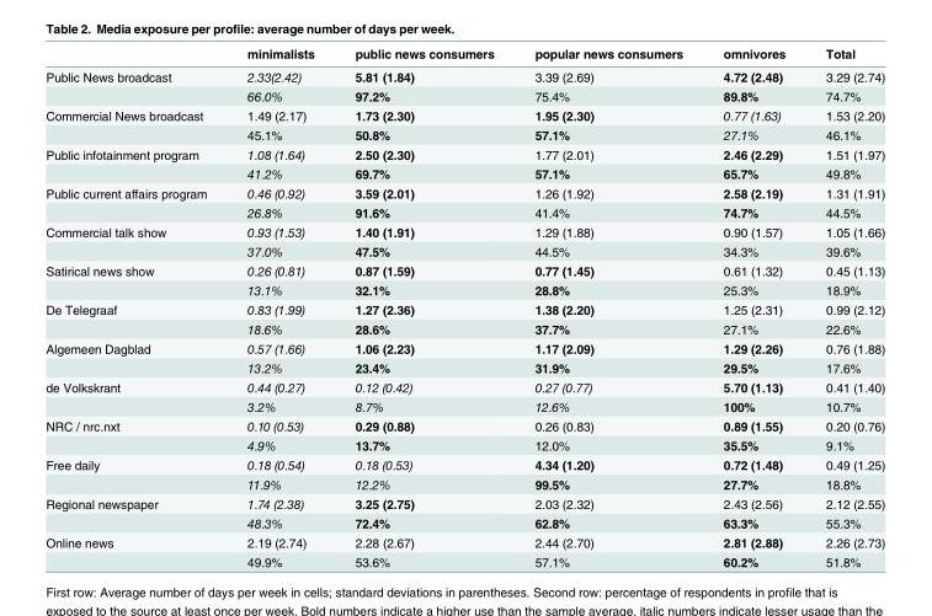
<table><thead><tr><td></td><td>minimalists</td><td>public news consumers</td><td>popular news consumers</td><td>omnivores</td><td>Total</td></tr></thead><tbody><tr><td rowspan="2">Public News broadcast</td><td>2.33(2.42)</td><td>5.81 (1.84)</td><td>3.39 (2.69)</td><td>4.72 (2.48)</td><td>3.29 (2.74)</td></tr><tr><td>66.0%</td><td>97.2%</td><td>75.4%</td><td>89.8%</td><td>74.7%</td></tr><tr><td rowspan="2">Commercial News broadcast</td><td>1.49 (2.17)</td><td>1.73 (2.30)</td><td>1.95 (2.30)</td><td>0.77 (1.63)</td><td>1.53 (2.20)</td></tr><tr><td>45.1%</td><td>50.8%</td><td>57.1%</td><td>27.1%</td><td>46.1%</td></tr><tr><td rowspan="2">Public infotainment program</td><td>1.08 (1.64)</td><td>2.50 (2.30)</td><td>1.77 (2.01)</td><td>2.46 (2.29)</td><td>1.51 (1.97)</td></tr><tr><td>41.2%</td><td>69.7%</td><td>57.1%</td><td>65.7%</td><td>49.8%</td></tr><tr><td rowspan="2">Public current affairs program</td><td>0.46 (0.92)</td><td>3.59 (2.01)</td><td>1.26 (1.92)</td><td>2.58 (2.19)</td><td>1.31 (1.91)</td></tr><tr><td>26.8%</td><td>91.6%</td><td>41.4%</td><td>74.7%</td><td>44.5%</td></tr><tr><td rowspan="2">Commercial talk show</td><td>0.93 (1.53)</td><td>1.40 (1.91)</td><td>1.29 (1.88)</td><td>0.90 (1.57)</td><td>1.05 (1.66)</td></tr><tr><td>37.0%</td><td>47.5%</td><td>44.5%</td><td>34.3%</td><td>39.6%</td></tr><tr><td rowspan="2">Satirical news show</td><td>0.26 (0.81)</td><td>0.87 (1.59)</td><td>0.77 (1.45)</td><td>0.61 (1.32)</td><td>0.45 (1.13)</td></tr><tr><td>13.1%</td><td>32.1%</td><td>28.8%</td><td>25.3%</td><td>18.9%</td></tr><tr><td rowspan="2">De Telegraaf</td><td>0.83 (1.99)</td><td>1.27 (2.36)</td><td>1.38 (2.20)</td><td>1.25 (2.31)</td><td>0.99 (2.12)</td></tr><tr><td>18.6%</td><td>28.6%</td><td>37.7%</td><td>27.1%</td><td>22.6%</td></tr><tr><td rowspan="2">Algemeen Dagblad</td><td>0.57 (1.66)</td><td>1.06 (2.23)</td><td>1.17 (2.09)</td><td>1.29 (2.26)</td><td>0.76 (1.88)</td></tr><tr><td>13.2%</td><td>23.4%</td><td>31.9%</td><td>29.5%</td><td>17.6%</td></tr><tr><td rowspan="2">de Volkskrant</td><td>0.44 (0.27)</td><td>0.12 (0.42)</td><td>0.27 (0.77)</td><td>5.70 (1.13)</td><td>0.41 (1.40)</td></tr><tr><td>3.2%</td><td>8.7%</td><td>12.6%</td><td>100%</td><td>10.7%</td></tr><tr><td rowspan="2">NRC / nrc.nxt</td><td>0.10 (0.53)</td><td>0.29 (0.88)</td><td>0.26 (0.83)</td><td>0.89 (1.55)</td><td>0.20 (0.76)</td></tr><tr><td>4.9%</td><td>13.7%</td><td>12.0%</td><td>35.5%</td><td>9.1%</td></tr><tr><td rowspan="2">Free daily</td><td>0.18 (0.54)</td><td>0.18 (0.53)</td><td>4.34 (1.20)</td><td>0.72 (1.48)</td><td>0.49 (1.25)</td></tr><tr><td>11.9%</td><td>12.2%</td><td>99.5%</td><td>27.7%</td><td>18.8%</td></tr><tr><td rowspan="2">Regional newspaper</td><td>1.74 (2.38)</td><td>3.25 (2.75)</td><td>2.03 (2.32)</td><td>2.43 (2.56)</td><td>2.12 (2.55)</td></tr><tr><td>48.3%</td><td>72.4%</td><td>62.8%</td><td>63.3%</td><td>55.3%</td></tr><tr><td rowspan="2">Online news</td><td>2.19 (2.74)</td><td>2.28 (2.67)</td><td>2.44 (2.70)</td><td>2.81 (2.88)</td><td>2.26 (2.73)</td></tr><tr><td>49.9%</td><td>53.6%</td><td>57.1%</td><td>60.2%</td><td>51.8%</td></tr></tbody></table>